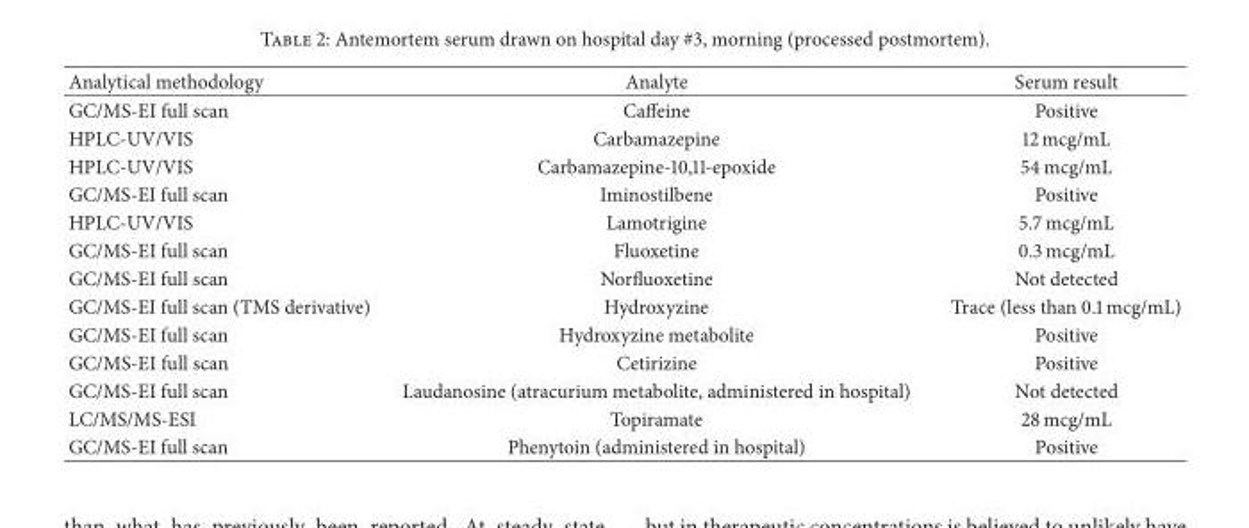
<table><thead><tr><td>Analytical methodology</td><td>Analyte</td><td>Serum result</td></tr></thead><tbody><tr><td>GC/MS-EI full scan</td><td>Caffeine</td><td>Positive</td></tr><tr><td>HPLC-UV/VIS</td><td>Carbamazepine</td><td>12 mcg/mL</td></tr><tr><td>HPLC-UV/VIS</td><td>Carbamazepine-10,11-epoxide</td><td>54 mcg/mL</td></tr><tr><td>GC/MS-EI full scan</td><td>Iminostilbene</td><td>Positive</td></tr><tr><td>HPLC-UV/VIS</td><td>Lamotrigine</td><td>5.7 mcg/mL</td></tr><tr><td>GC/MS-EI full scan</td><td>Fluoxetine</td><td>0.3 mcg/mL</td></tr><tr><td>GC/MS-EI full scan</td><td>Norfluoxetine</td><td>Not detected</td></tr><tr><td>GC/MS-EI full scan (TMS derivative)</td><td>Hydroxyzine</td><td>Trace (less than 0.1 mcg/mL)</td></tr><tr><td>GC/MS-EI full scan</td><td>Hydroxyzine metabolite</td><td>Positive</td></tr><tr><td>GC/MS-EI full scan</td><td>Cetirizine</td><td>Positive</td></tr><tr><td>GC/MS-EI full scan</td><td>Laudanosine (atracurium metabolite, administered in hospital)</td><td>Not detected</td></tr><tr><td>LC/MS/MS-ESI</td><td>Topiramate</td><td>28 mcg/mL</td></tr><tr><td>GC/MS-EI full scan</td><td>Phenytoin (administered in hospital)</td><td>Positive</td></tr></tbody></table>